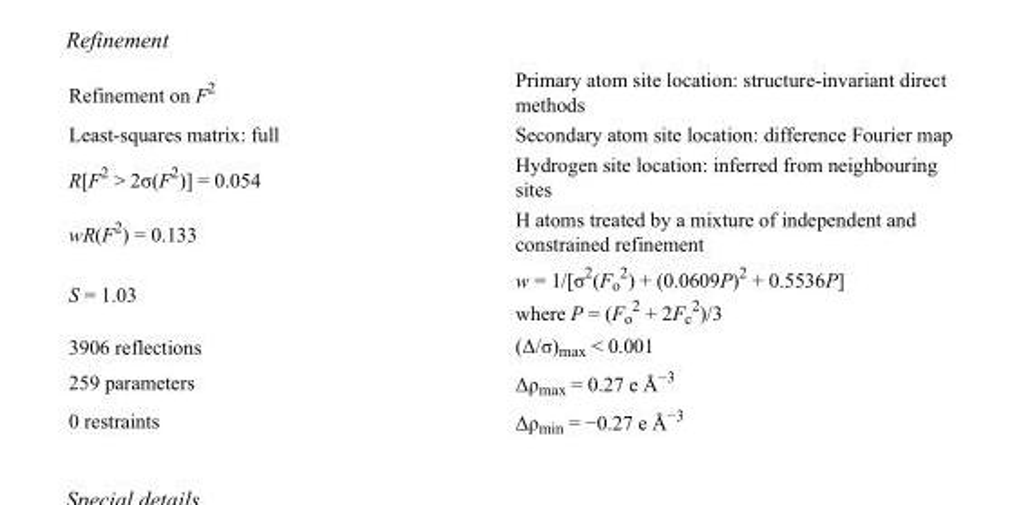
<table><tbody><tr><td>Refinement on F<sup>2</sup></td><td>Primary atom site location: structure-invariant direct methods</td></tr><tr><td>Least-squares matrix: full</td><td>Secondary atom site location: difference Fourier map</td></tr><tr><td>R[F<sup>2</sup> &gt; 2σ(F<sup>2</sup>)] = 0.054</td><td>Hydrogen site location: inferred from neighbouring sites</td></tr><tr><td>wR(F<sup>2</sup>) = 0.133</td><td>H atoms treated by a mixture of independent and constrained refinement</td></tr><tr><td>S = 1.03</td><td>w = 1/[σ<sup>2</sup>(F<sub>o</sub> <sup>2</sup>) + (0.0609P)<sup>2</sup> + 0.5536P] where P = (F<sub>o</sub> <sup>2</sup> + 2F<sub>c</sub> <sup>2</sup>)/3</td></tr><tr><td>3906 reflections</td><td>(Δ/σ)<sub>max</sub> &lt; 0.001</td></tr><tr><td>259 parameters</td><td>Δρ<sub>max</sub> = 0.27 e Å<sup>−3</sup></td></tr><tr><td>0 restraints</td><td>Δρ<sub>min</sub> = −0.27 e Å<sup>−3</sup></td></tr></tbody></table>